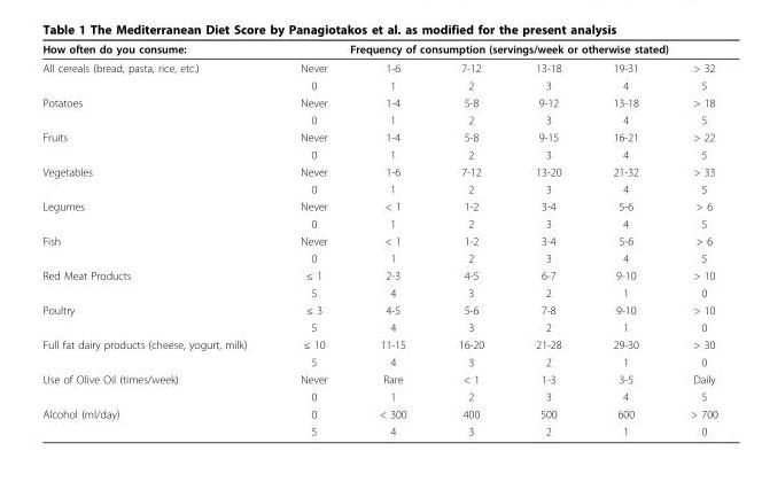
<table><thead><tr><td rowspan="2">How often do you consume: All cereals (bread, pasta, rice, etc.)</td><td colspan="6">Frequency of consumption (servings/week or otherwise stated)</td></tr><tr><td>Never</td><td>1-6</td><td>7-12</td><td>13-18</td><td>19-31</td><td>&gt; 32</td></tr></thead><tbody><tr><td></td><td>0</td><td>1</td><td>2</td><td>3</td><td>4</td><td>5</td></tr><tr><td rowspan="2">Potatoes</td><td>Never</td><td>1-4</td><td>5-8</td><td>9-12</td><td>13-18</td><td>&gt; 18</td></tr><tr><td>0</td><td>1</td><td>2</td><td>3</td><td>4</td><td>5</td></tr><tr><td rowspan="2">Fruits</td><td>Never</td><td>1-4</td><td>5-8</td><td>9-15</td><td>16-21</td><td>&gt; 22</td></tr><tr><td>0</td><td>1</td><td>2</td><td>3</td><td>4</td><td>5</td></tr><tr><td rowspan="2">Vegetables</td><td>Never</td><td>1-6</td><td>7-12</td><td>13-20</td><td>21-32</td><td>&gt; 33</td></tr><tr><td>0</td><td>1</td><td>2</td><td>3</td><td>4</td><td>5</td></tr><tr><td rowspan="2">Legumes</td><td>Never</td><td>&lt; 1</td><td>1-2</td><td>3-4</td><td>5-6</td><td>&gt; 6</td></tr><tr><td>0</td><td>1</td><td>2</td><td>3</td><td>4</td><td>5</td></tr><tr><td rowspan="2">Fish</td><td>Never</td><td>&lt; 1</td><td>1-2</td><td>3-4</td><td>5-6</td><td>&gt; 6</td></tr><tr><td>0</td><td>1</td><td>2</td><td>3</td><td>4</td><td>5</td></tr><tr><td rowspan="2">Red Meat Products</td><td>≤ 1</td><td>2-3</td><td>4-5</td><td>6-7</td><td>9-10</td><td>&gt; 10</td></tr><tr><td>5</td><td>4</td><td>3</td><td>2</td><td>1</td><td>0</td></tr><tr><td rowspan="2">Poultry</td><td>≤ 3</td><td>4-5</td><td>5-6</td><td>7-8</td><td>9-10</td><td>&gt; 10</td></tr><tr><td>5</td><td>4</td><td>3</td><td>2</td><td>1</td><td>0</td></tr><tr><td rowspan="2">Full fat dairy products (cheese, yogurt, milk)</td><td>≤ 10</td><td>11-15</td><td>16-20</td><td>21-28</td><td>29-30</td><td>&gt; 30</td></tr><tr><td>5</td><td>4</td><td>3</td><td>2</td><td>1</td><td>0</td></tr><tr><td rowspan="2">Use of Olive Oil (times/week)</td><td>Never</td><td>Rare</td><td>&lt; 1</td><td>1-3</td><td>3-5</td><td>Daily</td></tr><tr><td>0</td><td>1</td><td>2</td><td>3</td><td>4</td><td>5</td></tr><tr><td rowspan="2">Alcohol (ml/day)</td><td>0</td><td>&lt; 300</td><td>400</td><td>500</td><td>600</td><td>&gt; 700</td></tr><tr><td>5</td><td>4</td><td>3</td><td>2</td><td>1</td><td>0</td></tr></tbody></table>